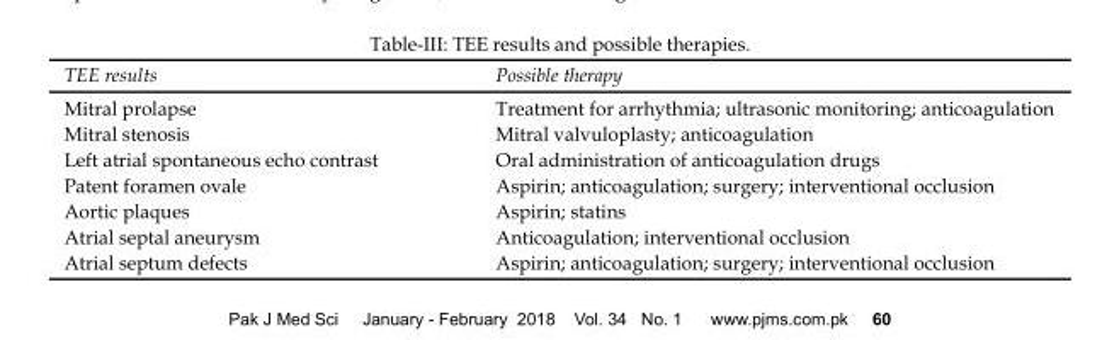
<table><thead><tr><td>TEE results</td><td>Possible therapy</td></tr></thead><tbody><tr><td>Mitral prolapse</td><td>Treatment for arrhythmia; ultrasonic monitoring; anticoagulation</td></tr><tr><td>Mitral stenosis</td><td>Mitral valvuloplasty; anticoagulation</td></tr><tr><td>Left atrial spontaneous echo contrast</td><td>Oral administration of anticoagulation drugs</td></tr><tr><td>Patent foramen ovale</td><td>Aspirin; anticoagulation; surgery; interventional occlusion</td></tr><tr><td>Aortic plaques</td><td>Aspirin; statins</td></tr><tr><td>Atrial septal aneurysm</td><td>Anticoagulation; interventional occlusion</td></tr><tr><td>Atrial septum defects</td><td>Aspirin; anticoagulation; surgery; interventional occlusion</td></tr></tbody></table>